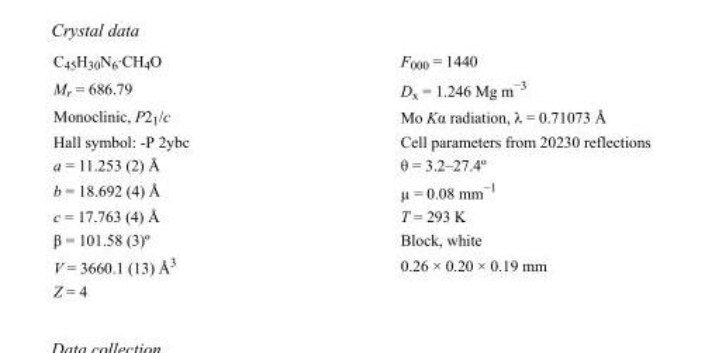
<table><tbody><tr><td>C<sub>45</sub>H<sub>30</sub>N<sub>6</sub>·CH<sub>4</sub>O</td><td>F000 = 1440</td></tr><tr><td>M<sub>r</sub> = 686.79</td><td>D<sub>x</sub> = 1.246 Mg m<sup>−3</sup></td></tr><tr><td>Monoclinic, P2<sub>1</sub>/c</td><td>Mo Kα radiation, λ = 0.71073 Å</td></tr><tr><td>Hall symbol: -P 2ybc</td><td>Cell parameters from 20230 reflections</td></tr><tr><td>a = 11.253 (2) Å</td><td>θ = 3.2–27.4º</td></tr><tr><td>b = 18.692 (4) Å</td><td>µ = 0.08 mm<sup>−1</sup></td></tr><tr><td>c = 17.763 (4) Å</td><td>T = 293 K</td></tr><tr><td>β = 101.58 (3)º</td><td>Block, white</td></tr><tr><td>V = 3660.1 (13) Å<sup>3</sup></td><td>0.26 × 0.20 × 0.19 mm</td></tr><tr><td>Z = 4</td><td></td></tr></tbody></table>